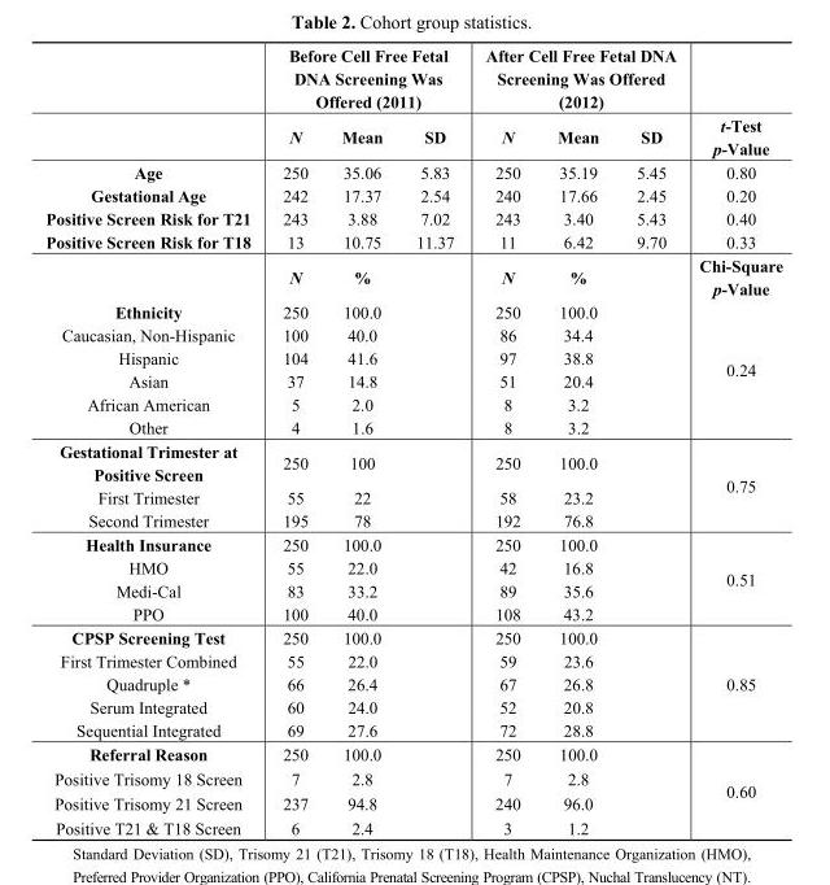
<table><thead><tr><td rowspan="2"></td><td colspan="3">Before Cell Free Fetal DNA Screening Was Offered (2011)</td><td colspan="3">After Cell Free Fetal DNA Screening Was Offered (2012)</td><td rowspan="2">t-Test p-Value</td></tr><tr><td>N</td><td>Mean</td><td>SD</td><td>N</td><td>Mean</td><td>SD</td></tr></thead><tbody><tr><td>Age</td><td>250</td><td>35.06</td><td>5.83</td><td>250</td><td>35.19</td><td>5.45</td><td>0.80</td></tr><tr><td>Gestational Age</td><td>242</td><td>17.37</td><td>2.54</td><td>240</td><td>17.66</td><td>2.45</td><td>0.20</td></tr><tr><td>Positive Screen Risk for T21</td><td>243</td><td>3.88</td><td>7.02</td><td>243</td><td>3.40</td><td>5.43</td><td>0.40</td></tr><tr><td rowspan="2">Positive Screen Risk for T18</td><td>13</td><td>10.75</td><td>11.37</td><td>11</td><td>6.42</td><td>9.70</td><td>0.33</td></tr><tr><td>N</td><td>%</td><td></td><td>N</td><td>%</td><td></td><td>Chi-Square p-Value</td></tr><tr><td>Ethnicity</td><td>250</td><td>100.0</td><td></td><td>250</td><td>100.0</td><td></td><td rowspan="6">0.24</td></tr><tr><td>Caucasian, Non-Hispanic</td><td>100</td><td>40.0</td><td></td><td>86</td><td>34.4</td><td></td></tr><tr><td>Hispanic</td><td>104</td><td>41.6</td><td></td><td>97</td><td>38.8</td><td></td></tr><tr><td>Asian</td><td>37</td><td>14.8</td><td></td><td>51</td><td>20.4</td><td></td></tr><tr><td>African American</td><td>5</td><td>2.0</td><td></td><td>8</td><td>3.2</td><td></td></tr><tr><td>Other</td><td>4</td><td>1.6</td><td></td><td>8</td><td>3.2</td><td></td></tr><tr><td>Gestational Trimester at Positive Screen</td><td>250</td><td>100</td><td></td><td>250</td><td>100.0</td><td></td><td rowspan="3">0.75</td></tr><tr><td>First Trimester</td><td>55</td><td>22</td><td></td><td>58</td><td>23.2</td><td></td></tr><tr><td>Second Trimester</td><td>195</td><td>78</td><td></td><td>192</td><td>76.8</td><td></td></tr><tr><td>Health Insurance</td><td>250</td><td>100.0</td><td></td><td>250</td><td>100.0</td><td></td><td rowspan="4">0.51</td></tr><tr><td>HMO</td><td>55</td><td>22.0</td><td></td><td>42</td><td>16.8</td><td></td></tr><tr><td>Medi-Cal</td><td>83</td><td>33.2</td><td></td><td>89</td><td>35.6</td><td></td></tr><tr><td>PPO</td><td>100</td><td>40.0</td><td></td><td>108</td><td>43.2</td><td></td></tr><tr><td>CPSP Screening Test</td><td>250</td><td>100.0</td><td></td><td>250</td><td>100.0</td><td></td><td rowspan="5">0.85</td></tr><tr><td>First Trimester Combined</td><td>55</td><td>22.0</td><td></td><td>59</td><td>23.6</td><td></td></tr><tr><td>Quadruple *</td><td>66</td><td>26.4</td><td></td><td>67</td><td>26.8</td><td></td></tr><tr><td>Serum Integrated</td><td>60</td><td>24.0</td><td></td><td>52</td><td>20.8</td><td></td></tr><tr><td>Sequential Integrated</td><td>69</td><td>27.6</td><td></td><td>72</td><td>28.8</td><td></td></tr><tr><td>Referral Reason</td><td>250</td><td>100.0</td><td></td><td>250</td><td>100.0</td><td></td><td rowspan="4">0.60</td></tr><tr><td>Positive Trisomy 18 Screen</td><td>7</td><td>2.8</td><td></td><td>7</td><td>2.8</td><td></td></tr><tr><td>Positive Trisomy 21 Screen</td><td>237</td><td>94.8</td><td></td><td>240</td><td>96.0</td><td></td></tr><tr><td>Positive T21 &amp; T18 Screen</td><td>6</td><td>2.4</td><td></td><td>3</td><td>1.2</td><td></td></tr></tbody></table>